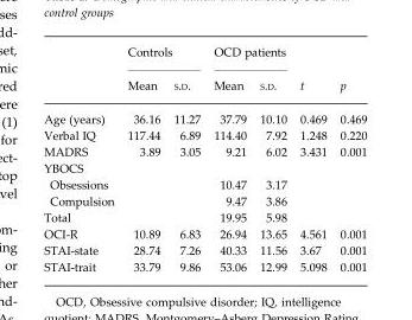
<table><thead><tr><td rowspan="2"></td><td colspan="2">Controls</td><td colspan="2">OCD patients</td><td rowspan="2">t</td><td rowspan="2">p</td></tr><tr><td>Mean</td><td>S.D.</td><td>Mean</td><td>S.D.</td></tr></thead><tbody><tr><td>Age (years)</td><td>36.16</td><td>11.27</td><td>37.79</td><td>10.10</td><td>0.469</td><td>0.469</td></tr><tr><td>Verbal IQ</td><td>117.44</td><td>6.89</td><td>114.40</td><td>7.92</td><td>1.248</td><td>0.220</td></tr><tr><td>MADRS</td><td>3.89</td><td>3.05</td><td>9.21</td><td>6.02</td><td>3.431</td><td>0.001</td></tr><tr><td colspan="7">YBOCS</td></tr><tr><td>Obsessions</td><td></td><td></td><td>10.47</td><td>3.17</td><td></td><td></td></tr><tr><td>Compulsion</td><td></td><td></td><td>9.47</td><td>3.86</td><td></td><td></td></tr><tr><td>Total</td><td></td><td></td><td>19.95</td><td>5.98</td><td></td><td></td></tr><tr><td>OCI-R</td><td>10.89</td><td>6.83</td><td>26.94</td><td>13.65</td><td>4.561</td><td>0.001</td></tr><tr><td>STAI-state</td><td>28.74</td><td>7.26</td><td>40.33</td><td>11.56</td><td>3.67</td><td>0.001</td></tr><tr><td>STAI-trait</td><td>33.79</td><td>9.86</td><td>53.06</td><td>12.99</td><td>5.098</td><td>0.001</td></tr></tbody></table>